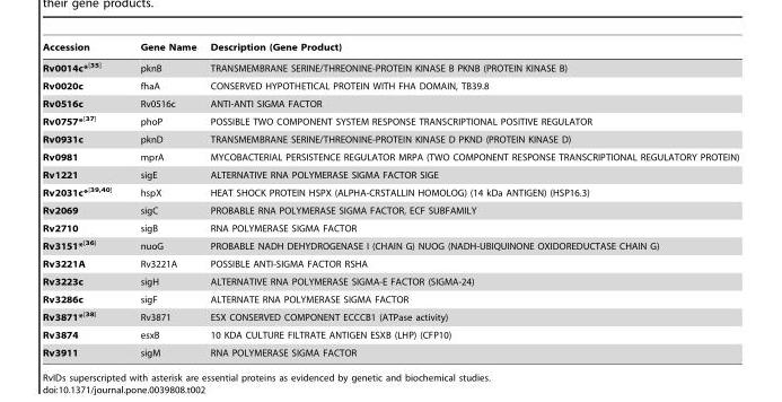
<table><thead><tr><td>Accession</td><td>Gene Name</td><td>Description (Gene Product)</td></tr></thead><tbody><tr><td>Rv0014c*<sup>[35]</sup></td><td>pknB</td><td>TRANSMEMBRANE SERINE/THREONINE-PROTEIN KINASE B PKNB (PROTEIN KINASE B)</td></tr><tr><td>Rv0020c</td><td>fhaA</td><td>CONSERVED HYPOTHETICAL PROTEIN WITH FHA DOMAIN, TB39.8</td></tr><tr><td>Rv0516c</td><td>Rv0516c</td><td>ANTI-ANTI SIGMA FACTOR</td></tr><tr><td>Rv0757*<sup>[37]</sup></td><td>phoP</td><td>POSSIBLE TWO COMPONENT SYSTEM RESPONSE TRANSCRIPTIONAL POSITIVE REGULATOR</td></tr><tr><td>Rv0931c</td><td>pknD</td><td>TRANSMEMBRANE SERINE/THREONINE-PROTEIN KINASE D PKND (PROTEIN KINASE D)</td></tr><tr><td>Rv0981</td><td>mprA</td><td>MYCOBACTERIAL PERSISTENCE REGULATOR MRPA (TWO COMPONENT RESPONSE TRANSCRIPTIONAL REGULATORY PROTEIN)</td></tr><tr><td>Rv1221</td><td>sigE</td><td>ALTERNATIVE RNA POLYMERASE SIGMA FACTOR SIGE</td></tr><tr><td>Rv2031c*[39,40]</td><td>hspX</td><td>HEAT SHOCK PROTEIN HSPX (ALPHA-CRSTALLIN HOMOLOG) (14 kDa ANTIGEN) (HSP16.3)</td></tr><tr><td>Rv2069</td><td>sigC</td><td>PROBABLE RNA POLYMERASE SIGMA FACTOR, ECF SUBFAMILY</td></tr><tr><td>Rv2710</td><td>sigB</td><td>RNA POLYMERASE SIGMA FACTOR</td></tr><tr><td>Rv3151*<sup>[36]</sup></td><td>nuoG</td><td>PROBABLE NADH DEHYDROGENASE I (CHAIN G) NUOG (NADH-UBIQUINONE OXIDOREDUCTASE CHAIN G)</td></tr><tr><td>Rv3221A</td><td>Rv3221A</td><td>POSSIBLE ANTI-SIGMA FACTOR RSHA</td></tr><tr><td>Rv3223c</td><td>sigH</td><td>ALTERNATIVE RNA POLYMERASE SIGMA-E FACTOR (SIGMA-24)</td></tr><tr><td>Rv3286c</td><td>sigF</td><td>ALTERNATE RNA POLYMERASE SIGMA FACTOR</td></tr><tr><td>Rv3871*<sup>[38]</sup></td><td>Rv3871</td><td>ESX CONSERVED COMPONENT ECCCB1 (ATPase activity)</td></tr><tr><td>Rv3874</td><td>esxB</td><td>10 KDA CULTURE FILTRATE ANTIGEN ESXB (LHP) (CFP10)</td></tr><tr><td>Rv3911</td><td>sigM</td><td>RNA POLYMERASE SIGMA FACTOR</td></tr></tbody></table>